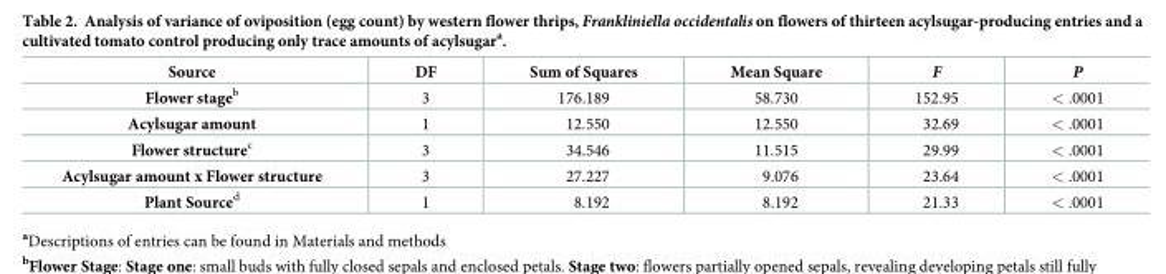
<table><thead><tr><td>Source</td><td>DF</td><td>Sum of Squares</td><td>Mean Square</td><td>F</td><td>P</td></tr></thead><tbody><tr><td>Flower stage<sup>b</sup></td><td>3</td><td>176.189</td><td>58.730</td><td>152.95</td><td>&lt; .0001</td></tr><tr><td>Acylsugar amount</td><td>1</td><td>12.550</td><td>12.550</td><td>32.69</td><td>&lt; .0001</td></tr><tr><td>Flower structure<sup>c</sup></td><td>3</td><td>34.546</td><td>11.515</td><td>29.99</td><td>&lt; .0001</td></tr><tr><td>Acylsugar amount x Flower structure</td><td>3</td><td>27.227</td><td>9.076</td><td>23.64</td><td>&lt; .0001</td></tr><tr><td>Plant Source<sup>d</sup></td><td>1</td><td>8.192</td><td>8.192</td><td>21.33</td><td>&lt; .0001</td></tr></tbody></table>